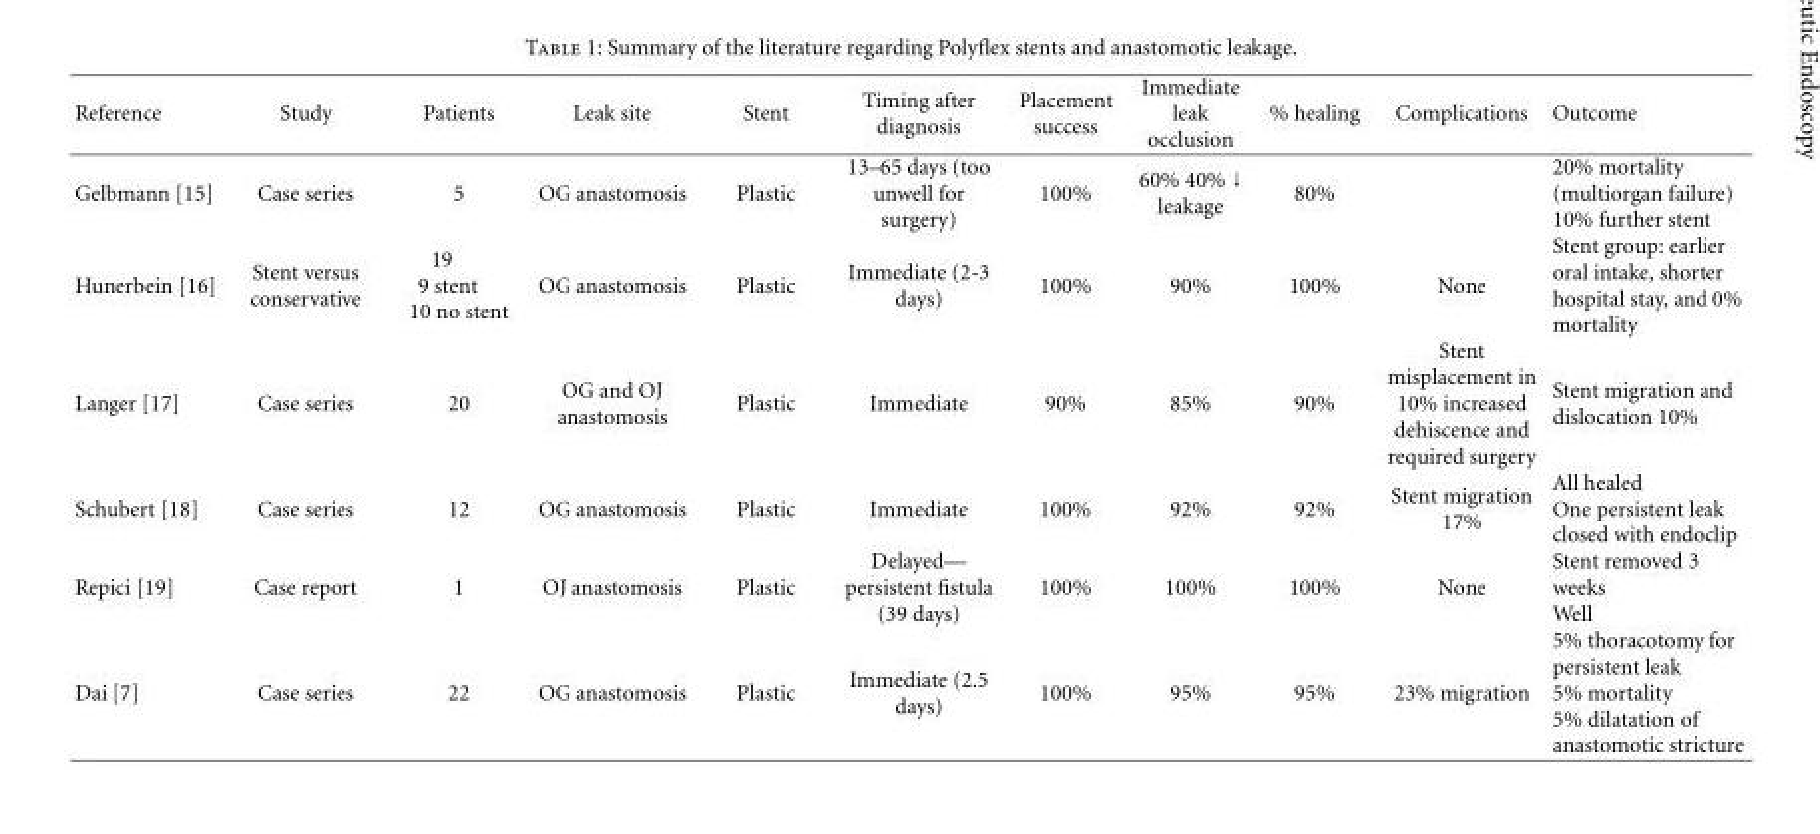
<table><thead><tr><td>Reference</td><td>Study</td><td>Patients</td><td>Leak site</td><td>Stent</td><td>Timing after diagnosis</td><td>Placement success</td><td>Immediate leak occlusion</td><td>% healing</td><td>Complications</td><td>Outcome</td></tr></thead><tbody><tr><td>Gelbmann [15]</td><td>Case series</td><td>5</td><td>OG anastomosis</td><td>Plastic</td><td>13–65 days (too unwell for surgery)</td><td>100%</td><td>60% 40% ↓ leakage</td><td>80%</td><td></td><td>20% mortality (multiorgan failure) 10% further stent</td></tr><tr><td>Hunerbein [16]</td><td>Stent versus conservative</td><td>19 9 stent 10 no stent</td><td>OG anastomosis</td><td>Plastic</td><td>Immediate (2-3 days)</td><td>100%</td><td>90%</td><td>100%</td><td>None</td><td>Stent group: earlier oral intake, shorter hospital stay, and 0% mortality</td></tr><tr><td>Langer [17]</td><td>Case series</td><td>20</td><td>OG and OJ anastomosis</td><td>Plastic</td><td>Immediate</td><td>90%</td><td>85%</td><td>90%</td><td>Stent misplacement in 10% increased dehiscence and required surgery</td><td>Stent migration and dislocation 10%</td></tr><tr><td>Schubert [18]</td><td>Case series</td><td>12</td><td>OG anastomosis</td><td>Plastic</td><td>Immediate</td><td>100%</td><td>92%</td><td>92%</td><td>Stent migration 17%</td><td>All healed One persistent leak closed with endoclip</td></tr><tr><td>Repici [19]</td><td>Case report</td><td>1</td><td>OJ anastomosis</td><td>Plastic</td><td>Delayed— persistent fistula (39 days)</td><td>100%</td><td>100%</td><td>100%</td><td>None</td><td>Stent removed 3 weeks Well</td></tr><tr><td>Dai [7]</td><td>Case series</td><td>22</td><td>OG anastomosis</td><td>Plastic</td><td>Immediate (2.5 days)</td><td>100%</td><td>95%</td><td>95%</td><td>23% migration</td><td>5% thoracotomy for persistent leak 5% mortality 5% dilatation of anastomotic stricture</td></tr></tbody></table>